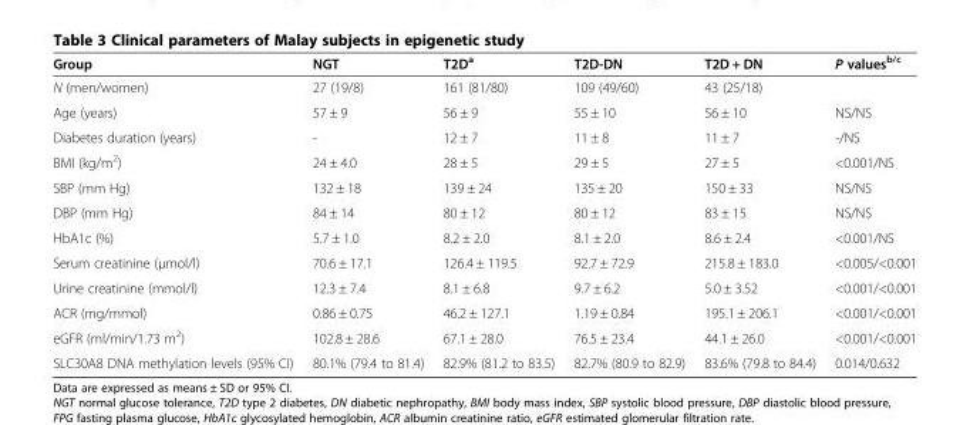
<table><thead><tr><td>Group</td><td>NGT</td><td>T2D<sup>a</sup></td><td>T2D-DN</td><td>T2D + DN</td><td>P values<sup>b/c</sup></td></tr></thead><tbody><tr><td>N (men/women)</td><td>27 (19/8)</td><td>161 (81/80)</td><td>109 (49/60)</td><td>43 (25/18)</td><td></td></tr><tr><td>Age (years)</td><td>57 ± 9</td><td>56 ± 9</td><td>55 ± 10</td><td>56 ± 10</td><td>NS/NS</td></tr><tr><td>Diabetes duration (years)</td><td>-</td><td>12 ± 7</td><td>11 ± 8</td><td>11 ± 7</td><td>-/NS</td></tr><tr><td>BMI (kg/m<sup>2</sup>)</td><td>24 ± 4.0</td><td>28 ± 5</td><td>29 ± 5</td><td>27 ± 5</td><td>&lt;0.001/NS</td></tr><tr><td>SBP (mm Hg)</td><td>132 ± 18</td><td>139 ± 24</td><td>135 ± 20</td><td>150 ± 33</td><td>NS/NS</td></tr><tr><td>DBP (mm Hg)</td><td>84 ± 14</td><td>80 ± 12</td><td>80 ± 12</td><td>83 ± 15</td><td>NS/NS</td></tr><tr><td>HbA1c (%)</td><td>5.7 ± 1.0</td><td>8.2 ± 2.0</td><td>8.1 ± 2.0</td><td>8.6 ± 2.4</td><td>&lt;0.001/NS</td></tr><tr><td>Serum creatinine (μmol/l)</td><td>70.6 ± 17.1</td><td>126.4 ± 119.5</td><td>92.7 ± 72.9</td><td>215.8 ± 183.0</td><td>&lt;0.005/&lt;0.001</td></tr><tr><td>Urine creatinine (mmol/l)</td><td>12.3 ± 7.4</td><td>8.1 ± 6.8</td><td>9.7 ± 6.2</td><td>5.0 ± 3.52</td><td>&lt;0.001/&lt;0.001</td></tr><tr><td>ACR (mg/mmol)</td><td>0.86 ± 0.75</td><td>46.2 ± 127.1</td><td>1.19 ± 0.84</td><td>195.1 ± 206.1</td><td>&lt;0.001/&lt;0.001</td></tr><tr><td>eGFR (ml/min/1.73 m<sup>2</sup>)</td><td>102.8 ± 28.6</td><td>67.1 ± 28.0</td><td>76.5 ± 23.4</td><td>44.1 ± 26.0</td><td>&lt;0.001/&lt;0.001</td></tr><tr><td>SLC30A8 DNA methylation levels (95% CI)</td><td>80.1% (79.4 to 81.4)</td><td>82.9% (81.2 to 83.5)</td><td>82.7% (80.9 to 82.9)</td><td>83.6% (79.8 to 84.4)</td><td>0.014/0.632</td></tr></tbody></table>